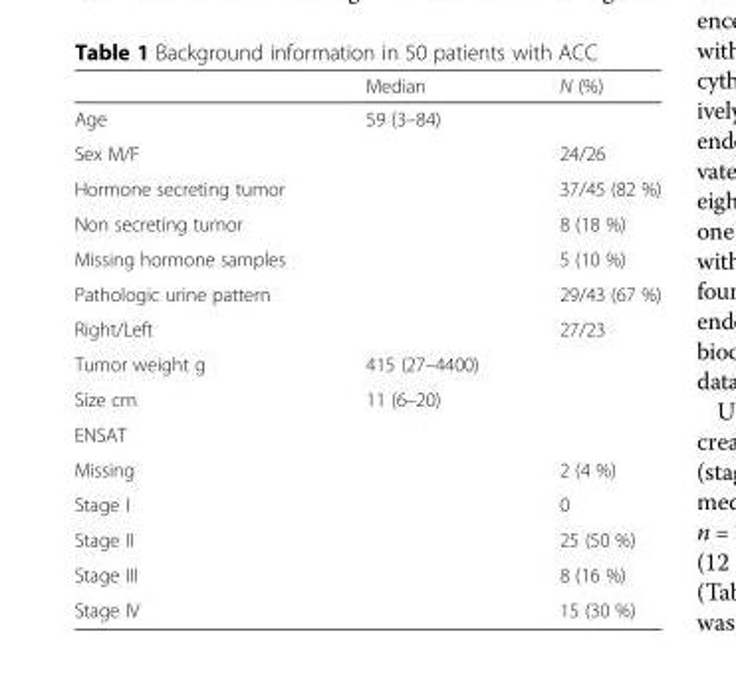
<table><thead><tr><td></td><td>Median</td><td>N (%)</td></tr></thead><tbody><tr><td>Age</td><td>59 (3–84)</td><td></td></tr><tr><td>Sex M/F</td><td></td><td>24/26</td></tr><tr><td>Hormone secreting tumor</td><td></td><td>37/45 (82 %)</td></tr><tr><td>Non secreting tumor</td><td></td><td>8 (18 %)</td></tr><tr><td>Missing hormone samples</td><td></td><td>5 (10 %)</td></tr><tr><td>Pathologic urine pattern</td><td></td><td>29/43 (67 %)</td></tr><tr><td>Right/Left</td><td></td><td>27/23</td></tr><tr><td>Tumor weight g</td><td>415 (27–4400)</td><td></td></tr><tr><td>Size cm</td><td>11 (6–20)</td><td></td></tr><tr><td colspan="3">ENSAT</td></tr><tr><td>Missing</td><td></td><td>2 (4 %)</td></tr><tr><td>Stage I</td><td></td><td>0</td></tr><tr><td>Stage II</td><td></td><td>25 (50 %)</td></tr><tr><td>Stage III</td><td></td><td>8 (16 %)</td></tr><tr><td>Stage IV</td><td></td><td>15 (30 %)</td></tr></tbody></table>